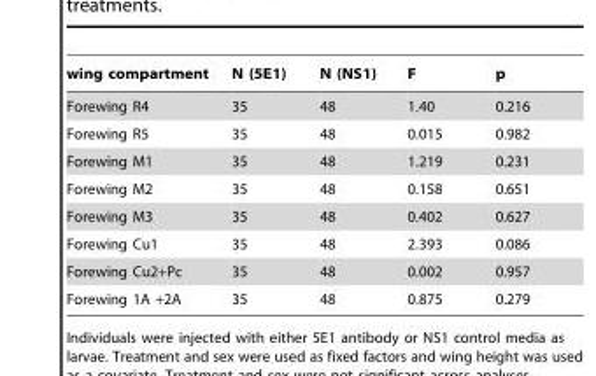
<table><thead><tr><td>wing compartment</td><td>N (5E1)</td><td>N (NS1)</td><td>F</td><td>p</td></tr></thead><tbody><tr><td>Forewing R4</td><td>35</td><td>48</td><td>1.40</td><td>0.216</td></tr><tr><td>Forewing R5</td><td>35</td><td>48</td><td>0.015</td><td>0.982</td></tr><tr><td>Forewing M1</td><td>35</td><td>48</td><td>1.219</td><td>0.231</td></tr><tr><td>Forewing M2</td><td>35</td><td>48</td><td>0.158</td><td>0.651</td></tr><tr><td>Forewing M3</td><td>35</td><td>48</td><td>0.402</td><td>0.627</td></tr><tr><td>Forewing Cu1</td><td>35</td><td>48</td><td>2.393</td><td>0.086</td></tr><tr><td>Forewing Cu2+Pc</td><td>35</td><td>48</td><td>0.002</td><td>0.957</td></tr><tr><td>Forewing 1A +2A</td><td>35</td><td>48</td><td>0.875</td><td>0.279</td></tr></tbody></table>